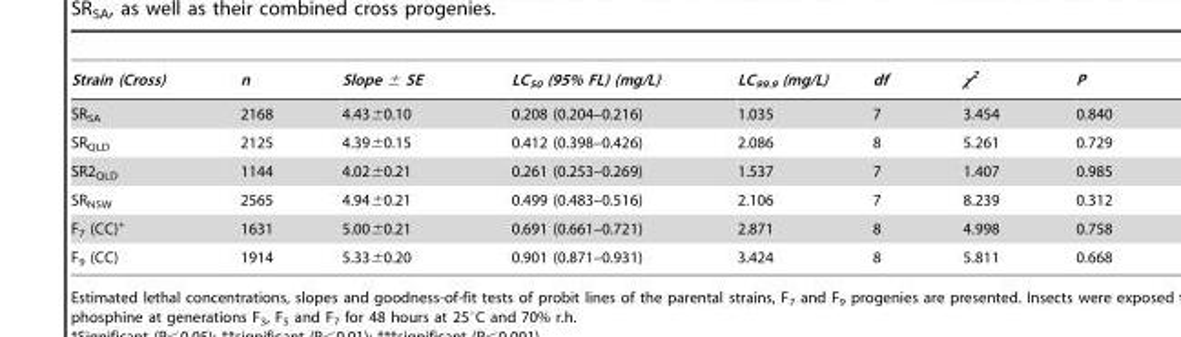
<table><thead><tr><td>Strain (Cross)</td><td>n</td><td>Slope ± SE</td><td>LC<sub>50</sub> (95% FL) (mg/L)</td><td>LC<sub>99.9</sub> (mg/L)</td><td>df</td><td>χ<sup>2</sup></td><td>P</td></tr></thead><tbody><tr><td>SR<sub>SA</sub></td><td>2168</td><td>4.43±0.10</td><td>0.208 (0.204–0.216)</td><td>1.035</td><td>7</td><td>3.454</td><td>0.840</td></tr><tr><td>SR<sub>QLD</sub></td><td>2125</td><td>4.39±0.15</td><td>0.412 (0.398–0.426)</td><td>2.086</td><td>8</td><td>5.261</td><td>0.729</td></tr><tr><td>SR2<sub>QLD</sub></td><td>1144</td><td>4.02±0.21</td><td>0.261 (0.253–0.269)</td><td>1.537</td><td>7</td><td>1.407</td><td>0.985</td></tr><tr><td>SR<sub>NSW</sub></td><td>2565</td><td>4.94±0.21</td><td>0.499 (0.483–0.516)</td><td>2.106</td><td>7</td><td>8.239</td><td>0.312</td></tr><tr><td>F<sub>7</sub> (CC)+</td><td>1631</td><td>5.00±0.21</td><td>0.691 (0.661–0.721)</td><td>2.871</td><td>8</td><td>4.998</td><td>0.758</td></tr><tr><td>F<sub>9</sub> (CC)</td><td>1914</td><td>5.33±0.20</td><td>0.901 (0.871–0.931)</td><td>3.424</td><td>8</td><td>5.811</td><td>0.668</td></tr></tbody></table>